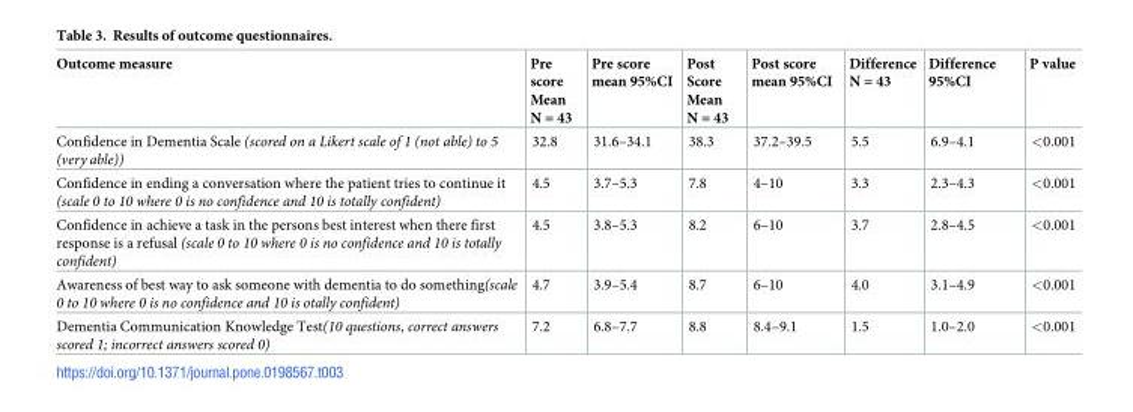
<table><thead><tr><td>Outcome measure</td><td>Pre score Mean N = 43</td><td>Pre score mean 95%CI</td><td>Post Score Mean N = 43</td><td>Post score mean 95%CI</td><td>Difference N = 43</td><td>Difference 95%CI</td><td>P value</td></tr></thead><tbody><tr><td>Confidence in Dementia Scale (scored on a Likert scale of 1 (not able) to 5 (very able))</td><td>32.8</td><td>31.6–34.1</td><td>38.3</td><td>37.2–39.5</td><td>5.5</td><td>6.9–4.1</td><td>&lt;0.001</td></tr><tr><td>Confidence in ending a conversation where the patient tries to continue it (scale 0 to 10 where 0 is no confidence and 10 is totally confident)</td><td>4.5</td><td>3.7–5.3</td><td>7.8</td><td>4–10</td><td>3.3</td><td>2.3–4.3</td><td>&lt;0.001</td></tr><tr><td>Confidence in achieve a task in the persons best interest when there first response is a refusal (scale 0 to 10 where 0 is no confidence and 10 is totally confident)</td><td>4.5</td><td>3.8–5.3</td><td>8.2</td><td>6–10</td><td>3.7</td><td>2.8–4.5</td><td>&lt;0.001</td></tr><tr><td>Awareness of best way to ask someone with dementia to do something(scale 0 to 10 where 0 is no confidence and 10 is otally confident)</td><td>4.7</td><td>3.9–5.4</td><td>8.7</td><td>6–10</td><td>4.0</td><td>3.1–4.9</td><td>&lt;0.001</td></tr><tr><td>Dementia Communication Knowledge Test(10 questions, correct answers scored 1; incorrect answers scored 0)</td><td>7.2</td><td>6.8–7.7</td><td>8.8</td><td>8.4–9.1</td><td>1.5</td><td>1.0–2.0</td><td>&lt;0.001</td></tr></tbody></table>